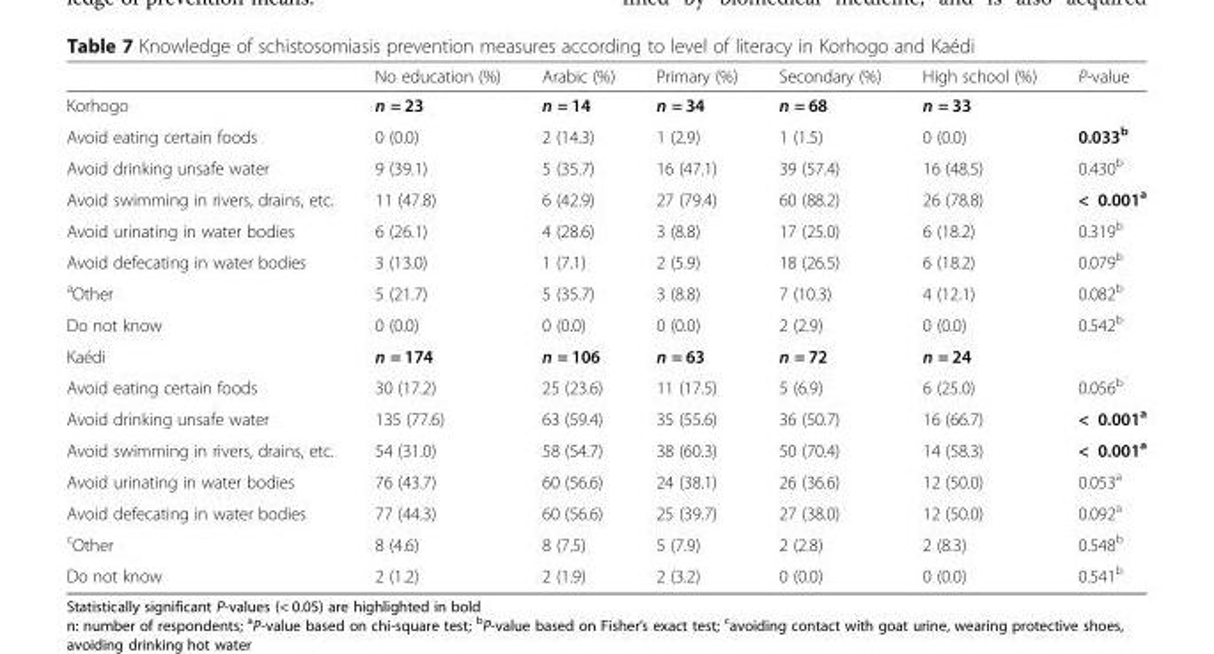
<table><thead><tr><td></td><td>No education (%)</td><td>Arabic (%)</td><td>Primary (%)</td><td>Secondary (%)</td><td>High school (%)</td><td>P-value</td></tr></thead><tbody><tr><td>Korhogo</td><td>n = 23</td><td>n = 14</td><td>n = 34</td><td>n = 68</td><td>n = 33</td><td></td></tr><tr><td>Avoid eating certain foods</td><td>0 (0.0)</td><td>2 (14.3)</td><td>1 (2.9)</td><td>1 (1.5)</td><td>0 (0.0)</td><td>0.033<sup>b</sup></td></tr><tr><td>Avoid drinking unsafe water</td><td>9 (39.1)</td><td>5 (35.7)</td><td>16 (47.1)</td><td>39 (57.4)</td><td>16 (48.5)</td><td>0.430<sup>b</sup></td></tr><tr><td>Avoid swimming in rivers, drains, etc.</td><td>11 (47.8)</td><td>6 (42.9)</td><td>27 (79.4)</td><td>60 (88.2)</td><td>26 (78.8)</td><td>&lt; 0.001<sup>a</sup></td></tr><tr><td>Avoid urinating in water bodies</td><td>6 (26.1)</td><td>4 (28.6)</td><td>3 (8.8)</td><td>17 (25.0)</td><td>6 (18.2)</td><td>0.319<sup>b</sup></td></tr><tr><td>Avoid defecating in water bodies</td><td>3 (13.0)</td><td>1 (7.1)</td><td>2 (5.9)</td><td>18 (26.5)</td><td>6 (18.2)</td><td>0.079<sup>b</sup></td></tr><tr><td><sup>a</sup>Other</td><td>5 (21.7)</td><td>5 (35.7)</td><td>3 (8.8)</td><td>7 (10.3)</td><td>4 (12.1)</td><td>0.082<sup>b</sup></td></tr><tr><td>Do not know</td><td>0 (0.0)</td><td>0 (0.0)</td><td>0 (0.0)</td><td>2 (2.9)</td><td>0 (0.0)</td><td>0.542<sup>b</sup></td></tr><tr><td>Kaédi</td><td>n = 174</td><td>n = 106</td><td>n = 63</td><td>n = 72</td><td>n = 24</td><td></td></tr><tr><td>Avoid eating certain foods</td><td>30 (17.2)</td><td>25 (23.6)</td><td>11 (17.5)</td><td>5 (6.9)</td><td>6 (25.0)</td><td>0.056<sup>b</sup></td></tr><tr><td>Avoid drinking unsafe water</td><td>135 (77.6)</td><td>63 (59.4)</td><td>35 (55.6)</td><td>36 (50.7)</td><td>16 (66.7)</td><td>&lt; 0.001<sup>a</sup></td></tr><tr><td>Avoid swimming in rivers, drains, etc.</td><td>54 (31.0)</td><td>58 (54.7)</td><td>38 (60.3)</td><td>50 (70.4)</td><td>14 (58.3)</td><td>&lt; 0.001<sup>a</sup></td></tr><tr><td>Avoid urinating in water bodies</td><td>76 (43.7)</td><td>60 (56.6)</td><td>24 (38.1)</td><td>26 (36.6)</td><td>12 (50.0)</td><td>0.053<sup>a</sup></td></tr><tr><td>Avoid defecating in water bodies</td><td>77 (44.3)</td><td>60 (56.6)</td><td>25 (39.7)</td><td>27 (38.0)</td><td>12 (50.0)</td><td>0.092<sup>a</sup></td></tr><tr><td><sup>c</sup>Other</td><td>8 (4.6)</td><td>8 (7.5)</td><td>5 (7.9)</td><td>2 (2.8)</td><td>2 (8.3)</td><td>0.548<sup>b</sup></td></tr><tr><td>Do not know</td><td>2 (1.2)</td><td>2 (1.9)</td><td>2 (3.2)</td><td>0 (0.0)</td><td>0 (0.0)</td><td>0.541<sup>b</sup></td></tr></tbody></table>